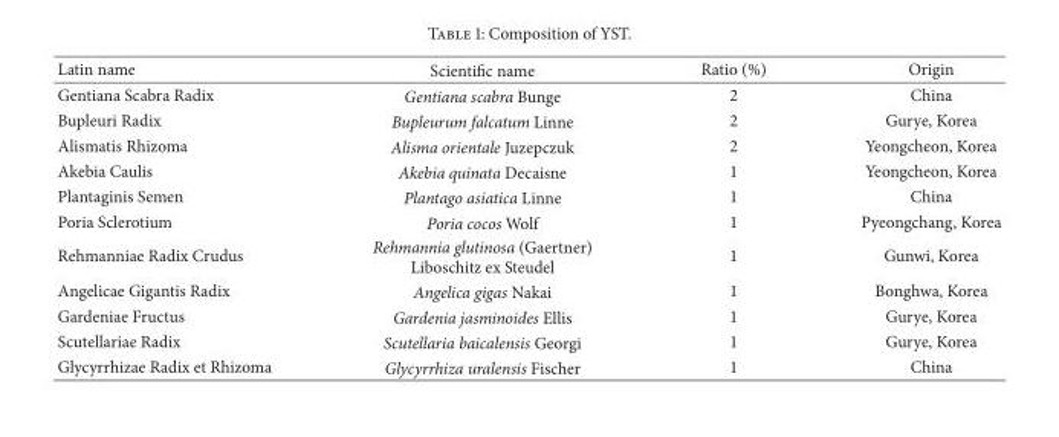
<table><thead><tr><td>Latin name</td><td>Scientific name</td><td>Ratio (%)</td><td>Origin</td></tr></thead><tbody><tr><td>Gentiana Scabra Radix</td><td>Gentiana scabra Bunge</td><td>2</td><td>China</td></tr><tr><td>Bupleuri Radix</td><td>Bupleurum falcatum Linne</td><td>2</td><td>Gurye, Korea</td></tr><tr><td>Alismatis Rhizoma</td><td>Alisma orientale Juzepczuk</td><td>2</td><td>Yeongcheon, Korea</td></tr><tr><td>Akebia Caulis</td><td>Akebia quinata Decaisne</td><td>1</td><td>Yeongcheon, Korea</td></tr><tr><td>Plantaginis Semen</td><td>Plantago asiatica Linne</td><td>1</td><td>China</td></tr><tr><td>Poria Sclerotium</td><td>Poria cocos Wolf</td><td>1</td><td>Pyeongchang, Korea</td></tr><tr><td>Rehmanniae Radix Crudus</td><td>Rehmannia glutinosa (Gaertner) Liboschitz ex Steudel</td><td>1</td><td>Gunwi, Korea</td></tr><tr><td>Angelicae Gigantis Radix</td><td>Angelica gigas Nakai</td><td>1</td><td>Bonghwa, Korea</td></tr><tr><td>Gardeniae Fructus</td><td>Gardenia jasminoides Ellis</td><td>1</td><td>Gurye, Korea</td></tr><tr><td>Scutellariae Radix</td><td>Scutellaria baicalensis Georgi</td><td>1</td><td>Gurye, Korea</td></tr><tr><td>Glycyrrhizae Radix et Rhizoma</td><td>Glycyrrhiza uralensis Fischer</td><td>1</td><td>China</td></tr></tbody></table>